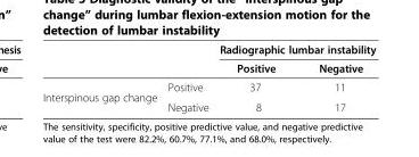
<table><thead><tr><td rowspan="2"></td><td rowspan="2"></td><td colspan="2">Radiographic lumbar instability</td></tr><tr><td>Positive</td><td>Negative</td></tr></thead><tbody><tr><td rowspan="2">Interspinous gap change</td><td>Positive</td><td>37</td><td>11</td></tr><tr><td>Negative</td><td>8</td><td>17</td></tr></tbody></table>